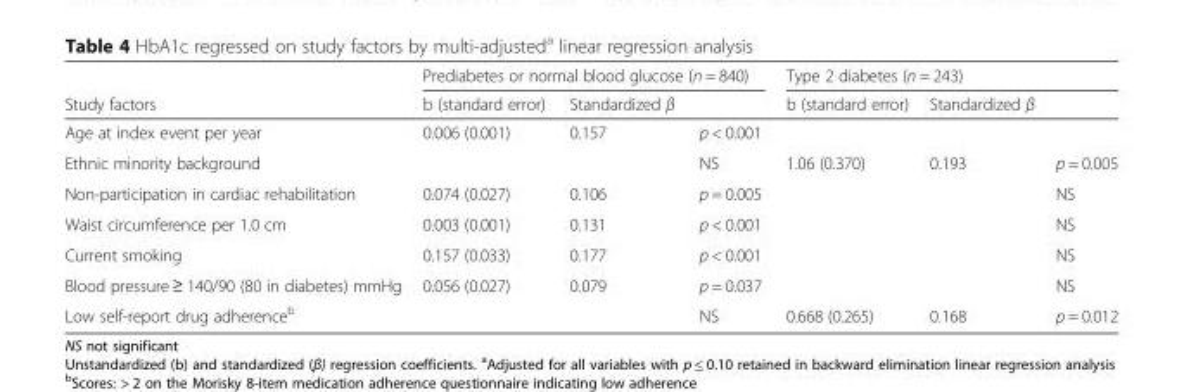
<table><thead><tr><td rowspan="2">Study factors</td><td colspan="3">Prediabetes or normal blood glucose (n = 840)</td><td colspan="3">Type 2 diabetes (n = 243)</td></tr><tr><td>b (standard error)</td><td>Standardized β</td><td></td><td>b (standard error)</td><td>Standardized β</td><td></td></tr></thead><tbody><tr><td>Age at index event per year</td><td>0.006 (0.001)</td><td>0.157</td><td>p &lt; 0.001</td><td></td><td></td><td></td></tr><tr><td>Ethnic minority background</td><td></td><td></td><td>NS</td><td>1.06 (0.370)</td><td>0.193</td><td>p = 0.005</td></tr><tr><td>Non-participation in cardiac rehabilitation</td><td>0.074 (0.027)</td><td>0.106</td><td>p = 0.005</td><td></td><td></td><td>NS</td></tr><tr><td>Waist circumference per 1.0 cm</td><td>0.003 (0.001)</td><td>0.131</td><td>p &lt; 0.001</td><td></td><td></td><td>NS</td></tr><tr><td>Current smoking</td><td>0.157 (0.033)</td><td>0.177</td><td>p &lt; 0.001</td><td></td><td></td><td>NS</td></tr><tr><td>Blood pressure ≥ 140/90 (80 in diabetes) mmHg</td><td>0.056 (0.027)</td><td>0.079</td><td>p = 0.037</td><td></td><td></td><td>NS</td></tr><tr><td>Low self-report drug adherence<sup>b</sup></td><td></td><td></td><td>NS</td><td>0.668 (0.265)</td><td>0.168</td><td>p = 0.012</td></tr></tbody></table>